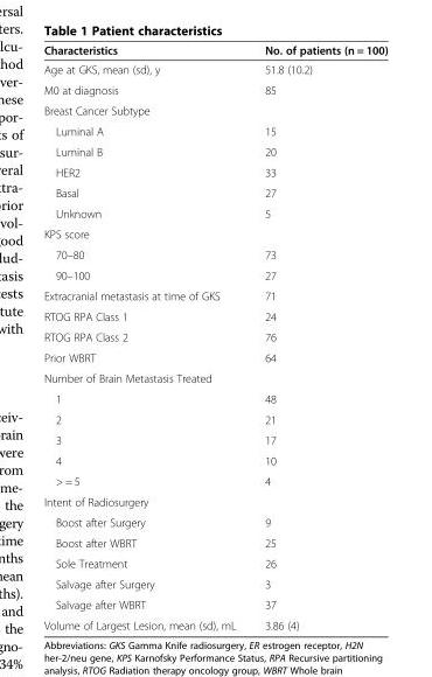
<table><thead><tr><td>Characteristics</td><td>No. of patients (n = 100)</td></tr></thead><tbody><tr><td>Age at GKS, mean (sd), y</td><td>51.8 (10.2)</td></tr><tr><td>M0 at diagnosis</td><td>85</td></tr><tr><td colspan="2">Breast Cancer Subtype</td></tr><tr><td>Luminal A</td><td>15</td></tr><tr><td>Luminal B</td><td>20</td></tr><tr><td>HER2</td><td>33</td></tr><tr><td>Basal</td><td>27</td></tr><tr><td>Unknown</td><td>5</td></tr><tr><td colspan="2">KPS score</td></tr><tr><td>70–80</td><td>73</td></tr><tr><td>90–100</td><td>27</td></tr><tr><td>Extracranial metastasis at time of GKS</td><td>71</td></tr><tr><td>RTOG RPA Class 1</td><td>24</td></tr><tr><td>RTOG RPA Class 2</td><td>76</td></tr><tr><td>Prior WBRT</td><td>64</td></tr><tr><td colspan="2">Number of Brain Metastasis Treated</td></tr><tr><td>1</td><td>48</td></tr><tr><td>2</td><td>21</td></tr><tr><td>3</td><td>17</td></tr><tr><td>4</td><td>10</td></tr><tr><td>&gt; = 5</td><td>4</td></tr><tr><td colspan="2">Intent of Radiosurgery</td></tr><tr><td>Boost after Surgery</td><td>9</td></tr><tr><td>Boost after WBRT</td><td>25</td></tr><tr><td>Sole Treatment</td><td>26</td></tr><tr><td>Salvage after Surgery</td><td>3</td></tr><tr><td>Salvage after WBRT</td><td>37</td></tr><tr><td>Volume of Largest Lesion, mean (sd), mL</td><td>3.86 (4)</td></tr></tbody></table>